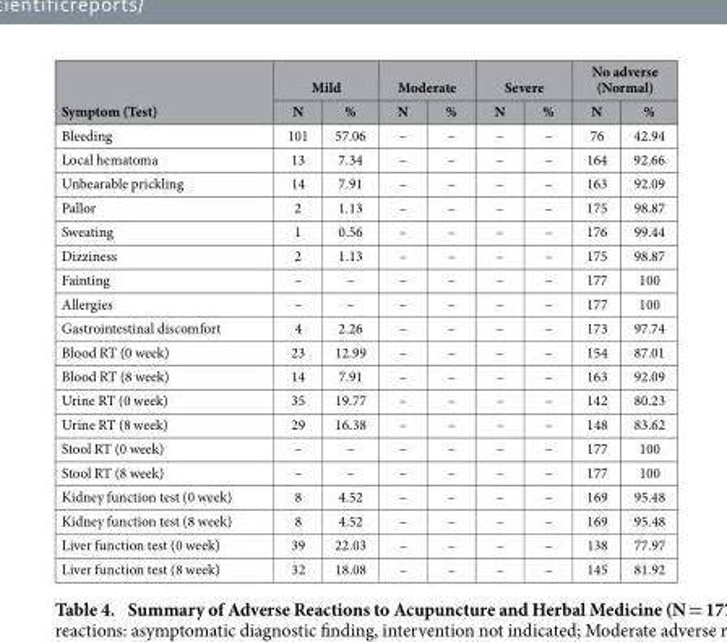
<table><thead><tr><td rowspan="2">Symptom (Test)</td><td colspan="2">Mild</td><td colspan="2">Moderate</td><td colspan="2">Severe</td><td colspan="2">No adverse (Normal)</td></tr><tr><td>N</td><td>%</td><td>N</td><td>%</td><td>N</td><td>%</td><td>N</td><td>%</td></tr></thead><tbody><tr><td>Bleeding</td><td>101</td><td>57.06</td><td>–</td><td>–</td><td>–</td><td>–</td><td>76</td><td>42.94</td></tr><tr><td>Local hematoma</td><td>13</td><td>7.34</td><td>–</td><td>–</td><td>–</td><td>–</td><td>164</td><td>92.66</td></tr><tr><td>Unbearable prickling</td><td>14</td><td>7.91</td><td>–</td><td>–</td><td>–</td><td>–</td><td>163</td><td>92.09</td></tr><tr><td>Pallor</td><td>2</td><td>1.13</td><td>–</td><td>–</td><td>–</td><td>–</td><td>175</td><td>98.87</td></tr><tr><td>Sweating</td><td>1</td><td>0.56</td><td>–</td><td>–</td><td>–</td><td>–</td><td>176</td><td>99.44</td></tr><tr><td>Dizziness</td><td>2</td><td>1.13</td><td>–</td><td>–</td><td>–</td><td>–</td><td>175</td><td>98.87</td></tr><tr><td>Fainting</td><td>–</td><td>–</td><td>–</td><td>–</td><td>–</td><td>–</td><td>177</td><td>100</td></tr><tr><td>Allergies</td><td>–</td><td>–</td><td>–</td><td>–</td><td>–</td><td>–</td><td>177</td><td>100</td></tr><tr><td>Gastrointestinal discomfort</td><td>4</td><td>2.26</td><td>–</td><td>–</td><td>–</td><td>–</td><td>173</td><td>97.74</td></tr><tr><td>Blood RT (0 week)</td><td>23</td><td>12.99</td><td>–</td><td>–</td><td>–</td><td>–</td><td>154</td><td>87.01</td></tr><tr><td>Blood RT (8 week)</td><td>14</td><td>7.91</td><td>–</td><td>–</td><td>–</td><td>–</td><td>163</td><td>92.09</td></tr><tr><td>Urine RT (0 week)</td><td>35</td><td>19.77</td><td>–</td><td>–</td><td>–</td><td>–</td><td>142</td><td>80.23</td></tr><tr><td>Urine RT (8 week)</td><td>29</td><td>16.38</td><td>–</td><td>–</td><td>–</td><td>–</td><td>148</td><td>83.62</td></tr><tr><td>Stool RT (0 week)</td><td>–</td><td>–</td><td>–</td><td>–</td><td>–</td><td>–</td><td>177</td><td>100</td></tr><tr><td>Stool RT (8 week)</td><td>–</td><td>–</td><td>–</td><td>–</td><td>–</td><td>–</td><td>177</td><td>100</td></tr><tr><td>Kidney function test (0 week)</td><td>8</td><td>4.52</td><td>–</td><td>–</td><td>–</td><td>–</td><td>169</td><td>95.48</td></tr><tr><td>Kidney function test (8 week)</td><td>8</td><td>4.52</td><td>–</td><td>–</td><td>–</td><td>–</td><td>169</td><td>95.48</td></tr><tr><td>Liver function test (0 week)</td><td>39</td><td>22.03</td><td>–</td><td>–</td><td>–</td><td>–</td><td>138</td><td>77.97</td></tr><tr><td>Liver function test (8 week)</td><td>32</td><td>18.08</td><td>–</td><td>–</td><td>–</td><td>–</td><td>145</td><td>81.92</td></tr></tbody></table>